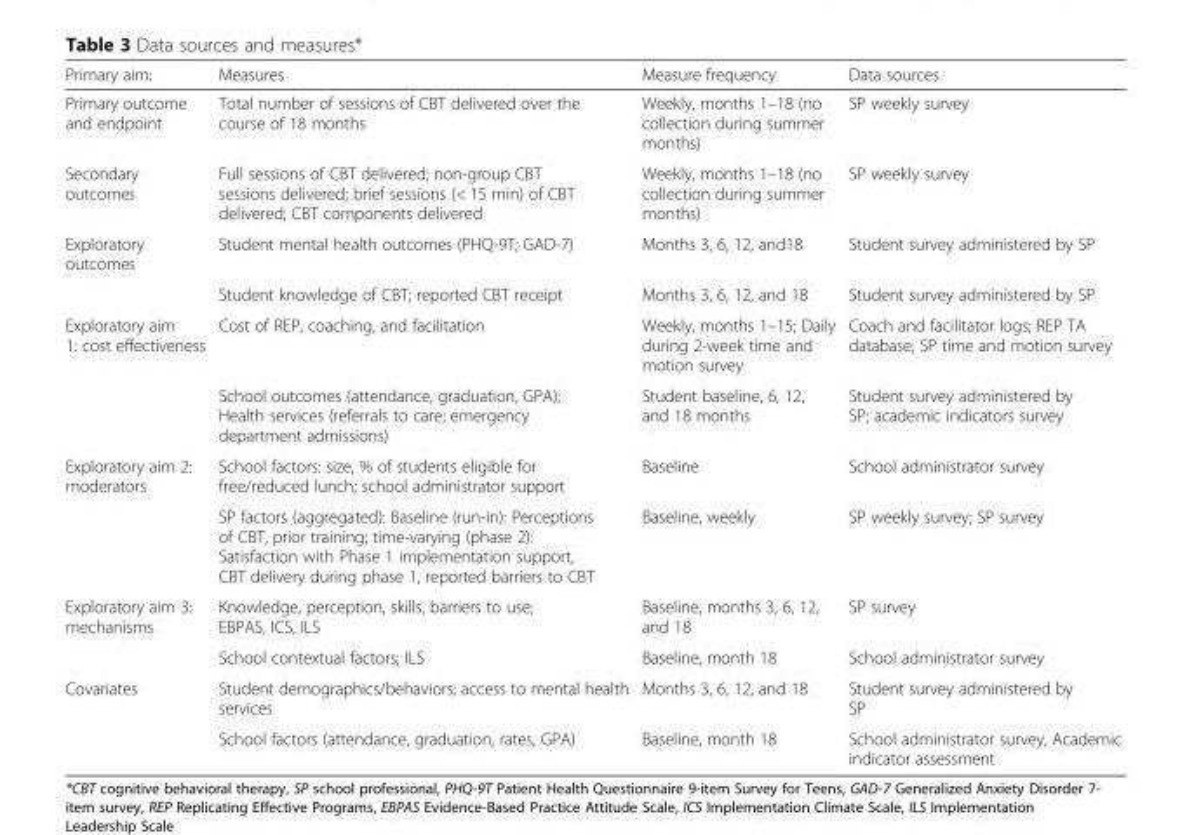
<table><thead><tr><td>Primary aim:</td><td>Measures</td><td>Measure frequency</td><td>Data sources</td></tr></thead><tbody><tr><td>Primary outcome and endpoint</td><td>Total number of sessions of CBT delivered over the course of 18 months</td><td>Weekly, months 1–18 (no collection during summer months)</td><td>SP weekly survey</td></tr><tr><td>Secondary outcomes</td><td>Full sessions of CBT delivered; non-group CBT sessions delivered; brief sessions (&lt; 15 min) of CBT delivered; CBT components delivered</td><td>Weekly, months 1–18 (no collection during summer months)</td><td>SP weekly survey</td></tr><tr><td rowspan="2">Exploratory outcomes</td><td>Student mental health outcomes (PHQ-9T; GAD-7)</td><td>Months 3, 6, 12, and18</td><td>Student survey administered by SP</td></tr><tr><td>Student knowledge of CBT; reported CBT receipt</td><td>Months 3, 6, 12, and 18</td><td>Student survey administered by SP</td></tr><tr><td rowspan="2">Exploratory aim 1: cost effectiveness</td><td>Cost of REP, coaching, and facilitation</td><td>Weekly, months 1–15; Daily during 2-week time and motion survey</td><td>Coach and facilitator logs; REP TA database; SP time and motion survey</td></tr><tr><td>School outcomes (attendance, graduation, GPA); Health services (referrals to care; emergency department admissions)</td><td>Student baseline, 6, 12, and 18 months</td><td>Student survey administered by SP; academic indicators survey</td></tr><tr><td rowspan="2">Exploratory aim 2: moderators</td><td>School factors: size, % of students eligible for free/reduced lunch; school administrator support</td><td>Baseline</td><td>School administrator survey</td></tr><tr><td>SP factors (aggregated): Baseline (run-in): Perceptions of CBT, prior training; time-varying (phase 2): Satisfaction with Phase 1 implementation support, CBT delivery during phase 1, reported barriers to CBT</td><td>Baseline, weekly</td><td>SP weekly survey; SP survey</td></tr><tr><td rowspan="2">Exploratory aim 3: mechanisms</td><td>Knowledge, perception, skills, barriers to use; EBPAS, ICS, ILS</td><td>Baseline, months 3, 6, 12, and 18</td><td>SP survey</td></tr><tr><td>School contextual factors; ILS</td><td>Baseline, month 18</td><td>School administrator survey</td></tr><tr><td rowspan="2">Covariates</td><td>Student demographics/behaviors; access to mental health services</td><td>Months 3, 6, 12, and 18</td><td>Student survey administered by SP</td></tr><tr><td>School factors (attendance, graduation, rates, GPA)</td><td>Baseline, month 18</td><td>School administrator survey, Academic indicator assessment</td></tr></tbody></table>